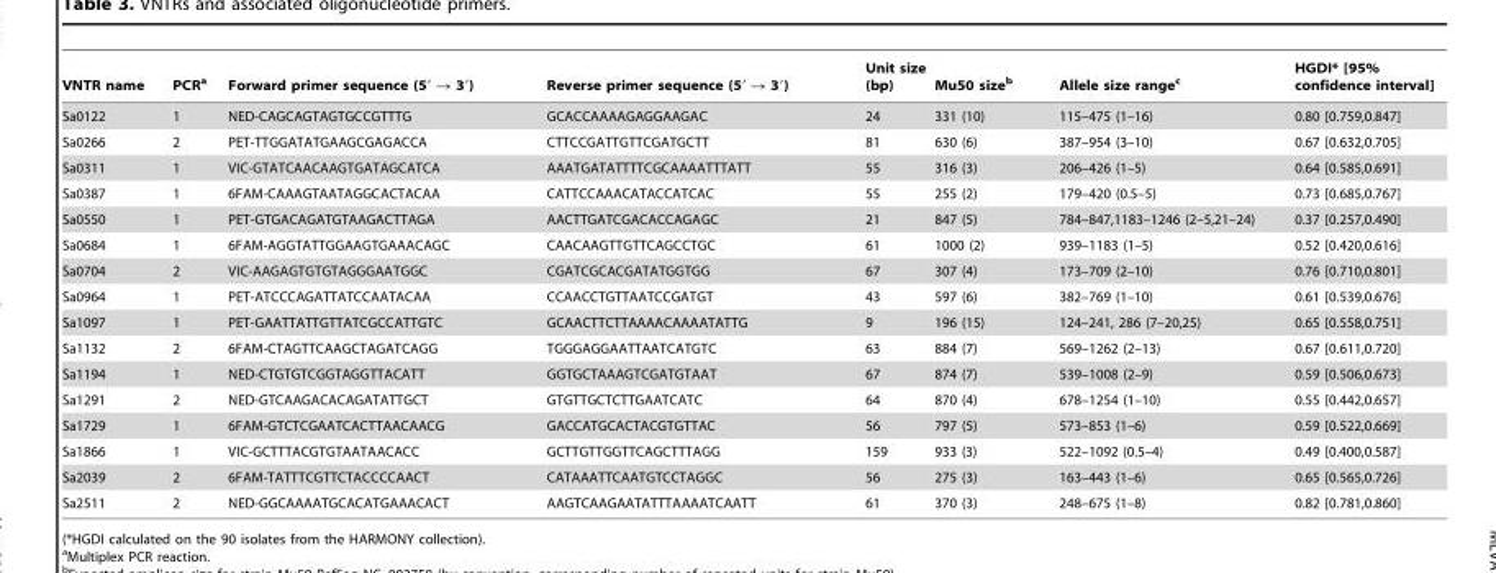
<table><thead><tr><td>VNTR name</td><td>PCR<sup>a</sup></td><td>Forward primer sequence (5′ → 3′)</td><td>Reverse primer sequence (5′ → 3′)</td><td>Unit size (bp)</td><td>Mu50 size<sup>b</sup></td><td>Allele size range<sup>c</sup></td><td>HGDI* [95% confidence interval]</td></tr></thead><tbody><tr><td>Sa0122</td><td>1</td><td>NED-CAGCAGTAGTGCCGTTTG</td><td>GCACCAAAAGAGGAAGAC</td><td>24</td><td>331 (10)</td><td>115–475 (1–16)</td><td>0.80 [0.759,0.847]</td></tr><tr><td>Sa0266</td><td>2</td><td>PET-TTGGATATGAAGCGAGACCA</td><td>CTTCCGATTGTTCGATGCTT</td><td>81</td><td>630 (6)</td><td>387–954 (3–10)</td><td>0.67 [0.632,0.705]</td></tr><tr><td>Sa0311</td><td>1</td><td>VIC-GTATCAACAAGTGATAGCATCA</td><td>AAATGATATTTTCGCAAAATTTATT</td><td>55</td><td>316 (3)</td><td>206–426 (1–5)</td><td>0.64 [0.585,0.691]</td></tr><tr><td>Sa0387</td><td>1</td><td>6FAM-CAAAGTAATAGGCACTACAA</td><td>CATTCCAAACATACCATCAC</td><td>55</td><td>255 (2)</td><td>179–420 (0.5–5)</td><td>0.73 [0.685,0.767]</td></tr><tr><td>Sa0550</td><td>1</td><td>PET-GTGACAGATGTAAGACTTAGA</td><td>AACTTGATCGACACCAGAGC</td><td>21</td><td>847 (5)</td><td>784–847,1183–1246 (2–5,21–24)</td><td>0.37 [0.257,0.490]</td></tr><tr><td>Sa0684</td><td>1</td><td>6FAM-AGGTATTGGAAGTGAAACAGC</td><td>CAACAAGTTGTTCAGCCTGC</td><td>61</td><td>1000 (2)</td><td>939–1183 (1–5)</td><td>0.52 [0.420,0.616]</td></tr><tr><td>Sa0704</td><td>2</td><td>VIC-AAGAGTGTGTAGGGAATGGC</td><td>CGATCGCACGATATGGTGG</td><td>67</td><td>307 (4)</td><td>173–709 (2–10)</td><td>0.76 [0.710,0.801]</td></tr><tr><td>Sa0964</td><td>1</td><td>PET-ATCCCAGATTATCCAATACAA</td><td>CCAACCTGTTAATCCGATGT</td><td>43</td><td>597 (6)</td><td>382–769 (1–10)</td><td>0.61 [0.539,0.676]</td></tr><tr><td>Sa1097</td><td>1</td><td>PET-GAATTATTGTTATCGCCATTGTC</td><td>GCAACTTCTTAAAACAAAATATTG</td><td>9</td><td>196 (15)</td><td>124–241, 286 (7–20,25)</td><td>0.65 [0.558,0.751]</td></tr><tr><td>Sa1132</td><td>2</td><td>6FAM-CTAGTTCAAGCTAGATCAGG</td><td>TGGGAGGAATTAATCATGTC</td><td>63</td><td>884 (7)</td><td>569–1262 (2–13)</td><td>0.67 [0.611,0.720]</td></tr><tr><td>Sa1194</td><td>1</td><td>NED-CTGTGTCGGTAGGTTACATT</td><td>GGTGCTAAAGTCGATGTAAT</td><td>67</td><td>874 (7)</td><td>539–1008 (2–9)</td><td>0.59 [0.506,0.673]</td></tr><tr><td>Sa1291</td><td>2</td><td>NED-GTCAAGACACAGATATTGCT</td><td>GTGTTGCTCTTGAATCATC</td><td>64</td><td>870 (4)</td><td>678–1254 (1–10)</td><td>0.55 [0.442,0.657]</td></tr><tr><td>Sa1729</td><td>1</td><td>6FAM-GTCTCGAATCACTTAACAACG</td><td>GACCATGCACTACGTGTTAC</td><td>56</td><td>797 (5)</td><td>573–853 (1–6)</td><td>0.59 [0.522,0.669]</td></tr><tr><td>Sa1866</td><td>1</td><td>VIC-GCTTTACGTGTAATAACACC</td><td>GCTTGTTGGTTCAGCTTTAGG</td><td>159</td><td>933 (3)</td><td>522–1092 (0.5–4)</td><td>0.49 [0.400,0.587]</td></tr><tr><td>Sa2039</td><td>2</td><td>6FAM-TATTTCGTTCTACCCCAACT</td><td>CATAAATTCAATGTCCTAGGC</td><td>56</td><td>275 (3)</td><td>163–443 (1–6)</td><td>0.65 [0.565,0.726]</td></tr><tr><td>Sa2511</td><td>2</td><td>NED-GGCAAAATGCACATGAAACACT</td><td>AAGTCAAGAATATTTAAAATCAATT</td><td>61</td><td>370 (3)</td><td>248–675 (1–8)</td><td>0.82 [0.781,0.860]</td></tr></tbody></table>